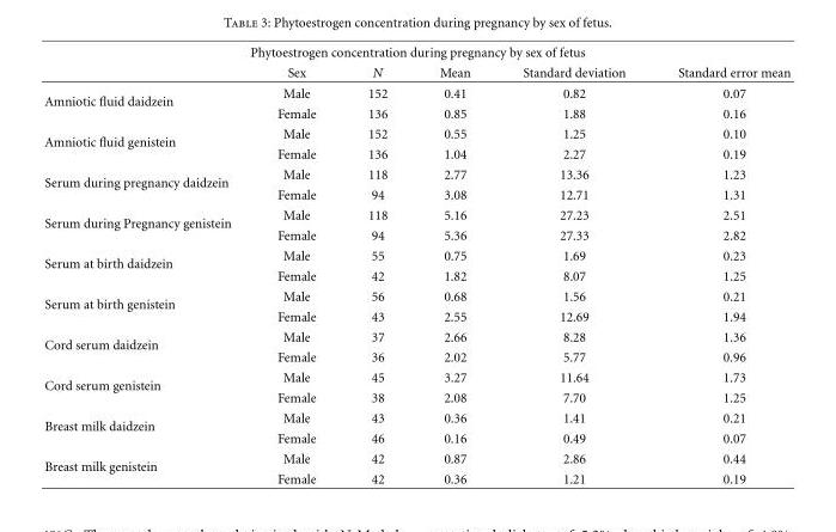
<table><thead><tr><td colspan="6">Phytoestrogen concentration during pregnancy by sex of fetus</td></tr><tr><td></td><td>Sex</td><td>N</td><td>Mean</td><td>Standard deviation</td><td>Standard error mean</td></tr></thead><tbody><tr><td rowspan="2">Amniotic fluid daidzein</td><td>Male</td><td>152</td><td>0.41</td><td>0.82</td><td>0.07</td></tr><tr><td>Female</td><td>136</td><td>0.85</td><td>1.88</td><td>0.16</td></tr><tr><td rowspan="2">Amniotic fluid genistein</td><td>Male</td><td>152</td><td>0.55</td><td>1.25</td><td>0.10</td></tr><tr><td>Female</td><td>136</td><td>1.04</td><td>2.27</td><td>0.19</td></tr><tr><td rowspan="2">Serum during pregnancy daidzein</td><td>Male</td><td>118</td><td>2.77</td><td>13.36</td><td>1.23</td></tr><tr><td>Female</td><td>94</td><td>3.08</td><td>12.71</td><td>1.31</td></tr><tr><td rowspan="2">Serum during Pregnancy genistein</td><td>Male</td><td>118</td><td>5.16</td><td>27.23</td><td>2.51</td></tr><tr><td>Female</td><td>94</td><td>5.36</td><td>27.33</td><td>2.82</td></tr><tr><td rowspan="2">Serum at birth daidzein</td><td>Male</td><td>55</td><td>0.75</td><td>1.69</td><td>0.23</td></tr><tr><td>Female</td><td>42</td><td>1.82</td><td>8.07</td><td>1.25</td></tr><tr><td rowspan="2">Serum at birth genistein</td><td>Male</td><td>56</td><td>0.68</td><td>1.56</td><td>0.21</td></tr><tr><td>Female</td><td>43</td><td>2.55</td><td>12.69</td><td>1.94</td></tr><tr><td rowspan="2">Cord serum daidzein</td><td>Male</td><td>37</td><td>2.66</td><td>8.28</td><td>1.36</td></tr><tr><td>Female</td><td>36</td><td>2.02</td><td>5.77</td><td>0.96</td></tr><tr><td rowspan="2">Cord serum genistein</td><td>Male</td><td>45</td><td>3.27</td><td>11.64</td><td>1.73</td></tr><tr><td>Female</td><td>38</td><td>2.08</td><td>7.70</td><td>1.25</td></tr><tr><td rowspan="2">Breast milk daidzein</td><td>Male</td><td>43</td><td>0.36</td><td>1.41</td><td>0.21</td></tr><tr><td>Female</td><td>46</td><td>0.16</td><td>0.49</td><td>0.07</td></tr><tr><td rowspan="2">Breast milk genistein</td><td>Male</td><td>42</td><td>0.87</td><td>2.86</td><td>0.44</td></tr><tr><td>Female</td><td>42</td><td>0.36</td><td>1.21</td><td>0.19</td></tr></tbody></table>